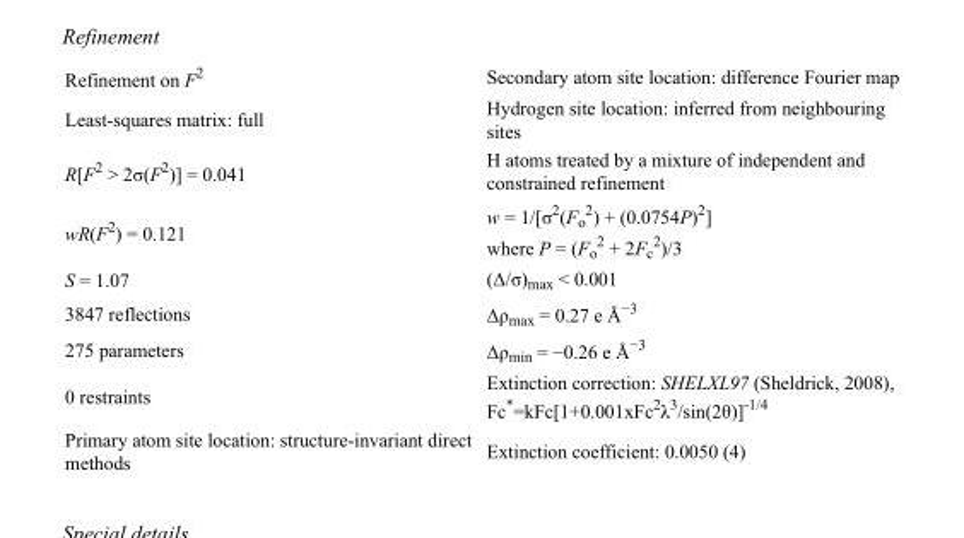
<table><tbody><tr><td>Refinement on F<sup>2</sup></td><td>Secondary atom site location: difference Fourier map</td></tr><tr><td>Least-squares matrix: full</td><td>Hydrogen site location: inferred from neighbouring sites</td></tr><tr><td>R[F<sup>2</sup> &gt; 2σ(F<sup>2</sup>)] = 0.041</td><td>H atoms treated by a mixture of independent and constrained refinement</td></tr><tr><td>wR(F<sup>2</sup>) = 0.121</td><td>w = 1/[σ<sup>2</sup>(F<sub>o</sub> <sup>2</sup>) + (0.0754P)<sup>2</sup>] where P = (F<sub>o</sub> <sup>2</sup> + 2F<sub>c</sub> <sup>2</sup>)/3</td></tr><tr><td>S = 1.07</td><td>(Δ/σ)<sub>max</sub> &lt; 0.001</td></tr><tr><td>3847 reflections</td><td>Δρ<sub>max</sub> = 0.27 e Å<sup>−3</sup></td></tr><tr><td>275 parameters</td><td>Δρ<sub>min</sub> = −0.26 e Å<sup>−3</sup></td></tr><tr><td>0 restraints</td><td>Extinction correction: SHELXL97 (Sheldrick, 2008), Fc*=kFc[1+0.001xFc<sup>2</sup>λ<sup>3</sup>/sin(2θ)]<sup>-1/4</sup></td></tr><tr><td>Primary atom site location: structure-invariant direct methods</td><td>Extinction coefficient: 0.0050 (4)</td></tr></tbody></table>